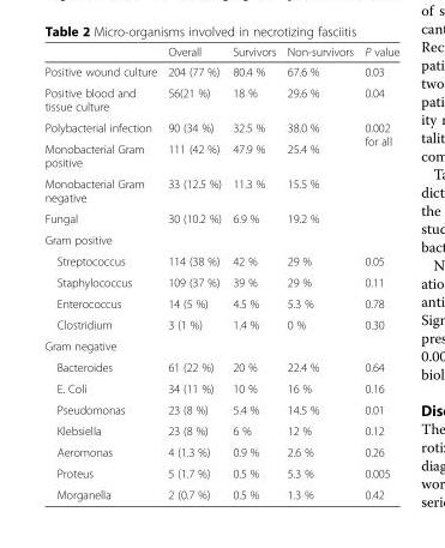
<table><thead><tr><td></td><td>Overall</td><td>Survivors</td><td>Non-survivors</td><td>P value</td></tr></thead><tbody><tr><td>Positive wound culture</td><td>204 (77 %)</td><td>80.4 %</td><td>67.6 %</td><td>0.03</td></tr><tr><td>Positive blood and tissue culture</td><td>56(21 %)</td><td>18 %</td><td>29.6 %</td><td>0.04</td></tr><tr><td>Polybacterial infection</td><td>90 (34 %)</td><td>32.5 %</td><td>38.0 %</td><td rowspan="4">0.002 for all</td></tr><tr><td>Monobacterial Gram positive</td><td>111 (42 %)</td><td>47.9 %</td><td>25.4 %</td></tr><tr><td>Monobacterial Gram negative</td><td>33 (12.5 %)</td><td>11.3 %</td><td>15.5 %</td></tr><tr><td>Fungal</td><td>30 (10.2 %)</td><td>6.9 %</td><td>19.2 %</td></tr><tr><td colspan="5">Gram positive</td></tr><tr><td>Streptococcus</td><td>114 (38 %)</td><td>42 %</td><td>29 %</td><td>0.05</td></tr><tr><td>Staphylococcus</td><td>109 (37 %)</td><td>39 %</td><td>29 %</td><td>0.11</td></tr><tr><td>Enterococcus</td><td>14 (5 %)</td><td>4.5 %</td><td>5.3 %</td><td>0.78</td></tr><tr><td>Clostridium</td><td>3 (1 %)</td><td>1.4 %</td><td>0 %</td><td>0.30</td></tr><tr><td colspan="5">Gram negative</td></tr><tr><td>Bacteroides</td><td>61 (22 %)</td><td>20 %</td><td>22.4 %</td><td>0.64</td></tr><tr><td>E. Coli</td><td>34 (11 %)</td><td>10 %</td><td>16 %</td><td>0.16</td></tr><tr><td>Pseudomonas</td><td>23 (8 %)</td><td>5.4 %</td><td>14.5 %</td><td>0.01</td></tr><tr><td>Klebsiella</td><td>23 (8 %)</td><td>6 %</td><td>12 %</td><td>0.12</td></tr><tr><td>Aeromonas</td><td>4 (1.3 %)</td><td>0.9 %</td><td>2.6 %</td><td>0.26</td></tr><tr><td>Proteus</td><td>5 (1.7 %)</td><td>0.5 %</td><td>5.3 %</td><td>0.005</td></tr><tr><td>Morganella</td><td>2 (0.7 %)</td><td>0.5 %</td><td>1.3 %</td><td>0.42</td></tr></tbody></table>